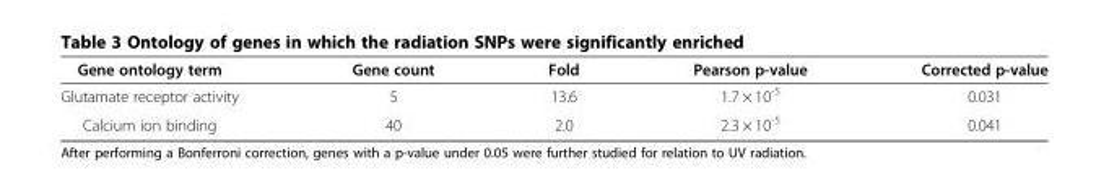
<table><thead><tr><td>Gene ontology term</td><td>Gene count</td><td>Fold</td><td>Pearson p-value</td><td>Corrected p-value</td></tr></thead><tbody><tr><td>Glutamate receptor activity</td><td>5</td><td>13.6</td><td>1.7 × 10<sup>-5</sup></td><td>0.031</td></tr><tr><td>Calcium ion binding</td><td>40</td><td>2.0</td><td>2.3 × 10<sup>-5</sup></td><td>0.041</td></tr></tbody></table>